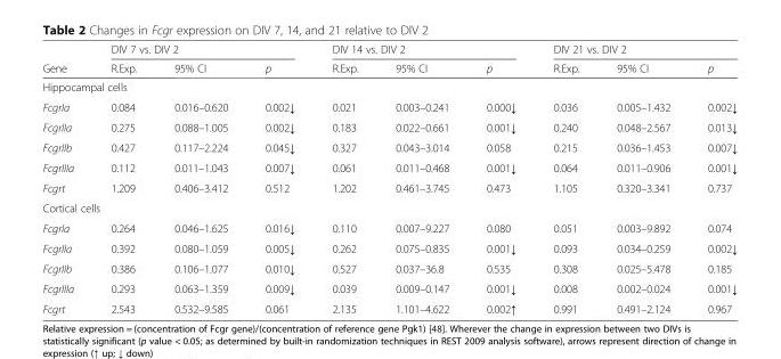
<table><thead><tr><td rowspan="2">Gene</td><td colspan="3">DIV 7 vs. DIV 2</td><td colspan="3">DIV 14 vs. DIV 2</td><td colspan="3">DIV 21 vs. DIV 2</td></tr><tr><td>R.Exp.</td><td>95% CI</td><td>p</td><td>R.Exp.</td><td>95% CI</td><td>p</td><td>R.Exp.</td><td>95% CI</td><td>p</td></tr></thead><tbody><tr><td colspan="10">Hippocampal cells</td></tr><tr><td>FcgrIa</td><td>0.084</td><td>0.016–0.620</td><td>0.002↓</td><td>0.021</td><td>0.003–0.241</td><td>0.000↓</td><td>0.036</td><td>0.005–1.432</td><td>0.002↓</td></tr><tr><td>FcgrIIa</td><td>0.275</td><td>0.088–1.005</td><td>0.002↓</td><td>0.183</td><td>0.022–0.661</td><td>0.001↓</td><td>0.240</td><td>0.048–2.567</td><td>0.013↓</td></tr><tr><td>FcgrIIb</td><td>0.427</td><td>0.117–2.224</td><td>0.045↓</td><td>0.327</td><td>0.043–3.014</td><td>0.058</td><td>0.215</td><td>0.036–1.453</td><td>0.007↓</td></tr><tr><td>FcgrIIIa</td><td>0.112</td><td>0.011–1.043</td><td>0.007↓</td><td>0.061</td><td>0.011–0.468</td><td>0.001↓</td><td>0.064</td><td>0.011–0.906</td><td>0.001↓</td></tr><tr><td>Fcgrt</td><td>1.209</td><td>0.406–3.412</td><td>0.512</td><td>1.202</td><td>0.461–3.745</td><td>0.473</td><td>1.105</td><td>0.320–3.341</td><td>0.737</td></tr><tr><td colspan="10">Cortical cells</td></tr><tr><td>FcgrIa</td><td>0.264</td><td>0.046–1.625</td><td>0.016↓</td><td>0.110</td><td>0.007–9.227</td><td>0.080</td><td>0.051</td><td>0.003–9.892</td><td>0.074</td></tr><tr><td>FcgrIIa</td><td>0.392</td><td>0.080–1.059</td><td>0.005↓</td><td>0.262</td><td>0.075–0.835</td><td>0.001↓</td><td>0.093</td><td>0.034–0.259</td><td>0.002↓</td></tr><tr><td>FcgrIIb</td><td>0.386</td><td>0.106–1.077</td><td>0.010↓</td><td>0.527</td><td>0.037–36.8</td><td>0.535</td><td>0.308</td><td>0.025–5.478</td><td>0.185</td></tr><tr><td>FcgrIIIa</td><td>0.293</td><td>0.063–1.359</td><td>0.009↓</td><td>0.039</td><td>0.009–0.147</td><td>0.001↓</td><td>0.008</td><td>0.002–0.024</td><td>0.001↓</td></tr><tr><td>Fcgrt</td><td>2.543</td><td>0.532–9.585</td><td>0.061</td><td>2.135</td><td>1.101–4.622</td><td>0.002↑</td><td>0.991</td><td>0.491–2.124</td><td>0.967</td></tr></tbody></table>